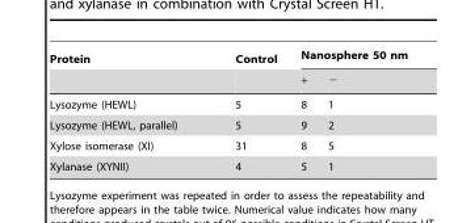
<table><thead><tr><td rowspan="2">Protein</td><td rowspan="2">Control</td><td colspan="2">Nanosphere 50 nm</td></tr><tr><td>+</td><td>−</td></tr></thead><tbody><tr><td>Lysozyme (HEWL)</td><td>5</td><td>8</td><td>1</td></tr><tr><td>Lysozyme (HEWL, parallel)</td><td>5</td><td>9</td><td>2</td></tr><tr><td>Xylose isomerase (XI)</td><td>31</td><td>8</td><td>5</td></tr><tr><td>Xylanase (XYNII)</td><td>4</td><td>5</td><td>1</td></tr></tbody></table>